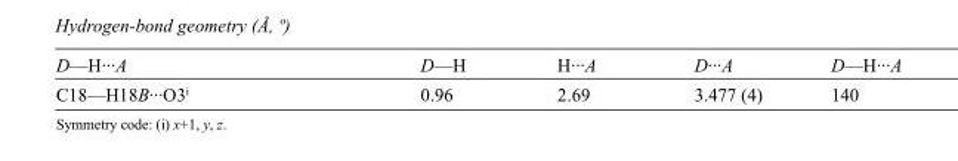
<table><tbody><tr><td>D—H···A</td><td>D—H</td><td>H···A</td><td>D···A</td><td>D—H···A</td></tr><tr><td>C18—H18B···O3<sup>i</sup></td><td>0.96</td><td>2.69</td><td>3.477 (4)</td><td>140</td></tr></tbody></table>